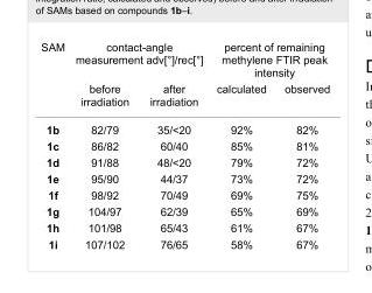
<table><tbody><tr><td rowspan="2">SAM</td><td colspan="2">contact-angle measurement adv[°]/rec[°]</td><td colspan="2">percent of remaining methylene FTIR peak intensity</td></tr><tr><td>before irradiation</td><td>after irradiation</td><td>calculated</td><td>observed</td></tr><tr><td>1b</td><td>82/79</td><td>35/&lt;20</td><td>92%</td><td>82%</td></tr><tr><td>1c</td><td>86/82</td><td>60/40</td><td>85%</td><td>81%</td></tr><tr><td>1d</td><td>91/88</td><td>48/&lt;20</td><td>79%</td><td>72%</td></tr><tr><td>1e</td><td>95/90</td><td>44/37</td><td>73%</td><td>72%</td></tr><tr><td>1f</td><td>98/92</td><td>70/49</td><td>69%</td><td>75%</td></tr><tr><td>1g</td><td>104/97</td><td>62/39</td><td>65%</td><td>69%</td></tr><tr><td>1h</td><td>101/98</td><td>65/43</td><td>61%</td><td>67%</td></tr><tr><td>1i</td><td>107/102</td><td>76/65</td><td>58%</td><td>67%</td></tr></tbody></table>